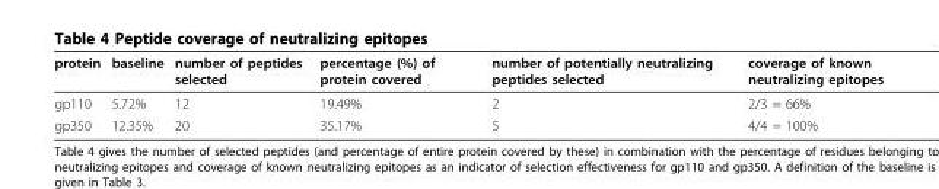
<table><thead><tr><td>protein</td><td>baseline</td><td>number of peptides selected</td><td>percentage (%) of protein covered</td><td>number of potentially neutralizing peptides selected</td><td>coverage of known neutralizing epitopes</td></tr></thead><tbody><tr><td>gp110</td><td>5.72%</td><td>12</td><td>19.49%</td><td>2</td><td>2/3 = 66%</td></tr><tr><td>gp350</td><td>12.35%</td><td>20</td><td>35.17%</td><td>5</td><td>4/4 = 100%</td></tr></tbody></table>